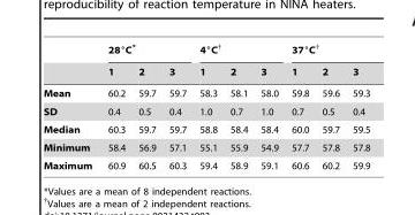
<table><thead><tr><td rowspan="2"></td><td colspan="3">28°C*</td><td colspan="3">4°C†</td><td colspan="3">37°C†</td></tr><tr><td>1</td><td>2</td><td>3</td><td>1</td><td>2</td><td>3</td><td>1</td><td>2</td><td>3</td></tr></thead><tbody><tr><td>Mean</td><td>60.2</td><td>59.7</td><td>59.7</td><td>58.3</td><td>58.1</td><td>58.0</td><td>59.8</td><td>59.6</td><td>59.3</td></tr><tr><td>SD</td><td>0.4</td><td>0.5</td><td>0.4</td><td>1.0</td><td>0.7</td><td>1.0</td><td>0.7</td><td>0.5</td><td>0.4</td></tr><tr><td>Median</td><td>60.3</td><td>59.7</td><td>59.7</td><td>58.8</td><td>58.4</td><td>58.4</td><td>60.0</td><td>59.7</td><td>59.5</td></tr><tr><td>Minimum</td><td>58.4</td><td>56.9</td><td>57.1</td><td>55.1</td><td>55.9</td><td>54.9</td><td>57.7</td><td>57.8</td><td>57.8</td></tr><tr><td>Maximum</td><td>60.9</td><td>60.5</td><td>60.3</td><td>59.4</td><td>58.9</td><td>59.1</td><td>60.6</td><td>60.2</td><td>59.9</td></tr></tbody></table>